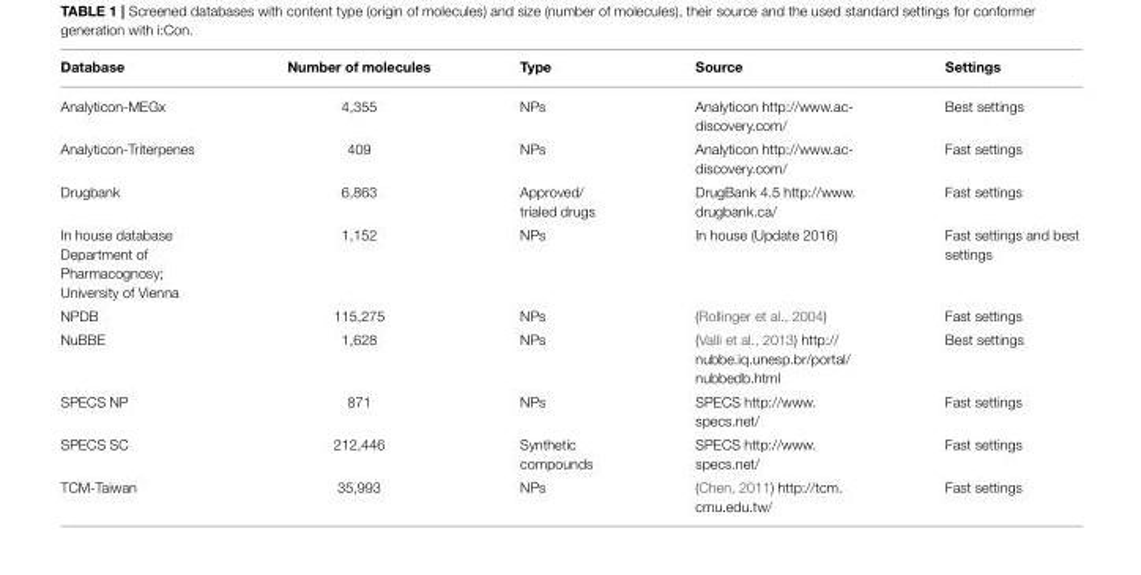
<table><thead><tr><td>Database</td><td>Number of molecules</td><td>Type</td><td>Source</td><td>Settings</td></tr></thead><tbody><tr><td>Analyticon-MEGx</td><td>4,355</td><td>NPs</td><td>Analyticon http://www.ac- discovery.com/</td><td>Best settings</td></tr><tr><td>Analyticon-Triterpenes</td><td>409</td><td>NPs</td><td>Analyticon http://www.ac- discovery.com/</td><td>Fast settings</td></tr><tr><td>Drugbank</td><td>6,863</td><td>Approved/ trialed drugs</td><td>DrugBank 4.5 http://www. drugbank.ca/</td><td>Fast settings</td></tr><tr><td>In house database Department of Pharmacognosy; University of Vienna</td><td>1,152</td><td>NPs</td><td>In house (Update 2016)</td><td>Fast settings and best settings</td></tr><tr><td>NPDB</td><td>115,275</td><td>NPs</td><td>(Rollinger et al., 2004)</td><td>Fast settings</td></tr><tr><td>NuBBE</td><td>1,628</td><td>NPs</td><td>(Valli et al., 2013) http:// nubbe.iq.unesp.br/portal/ nubbedb.html</td><td>Best settings</td></tr><tr><td>SPECS NP</td><td>871</td><td>NPs</td><td>SPECS http://www. specs.net/</td><td>Fast settings</td></tr><tr><td>SPECS SC</td><td>212,446</td><td>Synthetic compounds</td><td>SPECS http://www. specs.net/</td><td>Fast settings</td></tr><tr><td>TCM-Taiwan</td><td>35,993</td><td>NPs</td><td>(Chen, 2011) http://tcm. cmu.edu.tw/</td><td>Fast settings</td></tr></tbody></table>